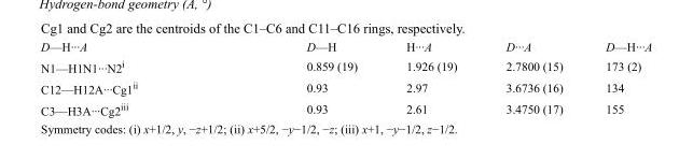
<table><tbody><tr><td>D—H···A</td><td>D—H</td><td>H···A</td><td>D···A</td><td>D—H···A</td></tr><tr><td>N1—H1N1···N2<sup>i</sup></td><td>0.859 (19)</td><td>1.926 (19)</td><td>2.7800 (15)</td><td>173 (2)</td></tr><tr><td>C12—H12A···Cg1<sup>ii</sup></td><td>0.93</td><td>2.97</td><td>3.6736 (16)</td><td>134</td></tr><tr><td>C3—H3A···Cg2<sup>iii</sup></td><td>0.93</td><td>2.61</td><td>3.4750 (17)</td><td>155</td></tr></tbody></table>